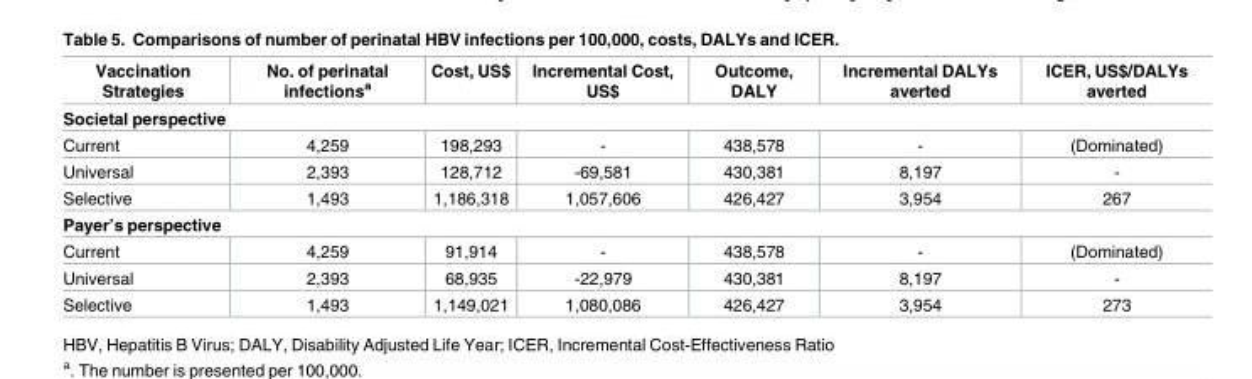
<table><thead><tr><td>Vaccination Strategies</td><td>No. of perinatal infections<sup>a</sup></td><td>Cost, US$</td><td>Incremental Cost, US$</td><td>Outcome, DALY</td><td>Incremental DALYs averted</td><td>ICER, US$/DALYs averted</td></tr></thead><tbody><tr><td colspan="7">Societal perspective</td></tr><tr><td>Current</td><td>4,259</td><td>198,293</td><td>-</td><td>438,578</td><td>-</td><td>(Dominated)</td></tr><tr><td>Universal</td><td>2,393</td><td>128,712</td><td>-69,581</td><td>430,381</td><td>8,197</td><td>-</td></tr><tr><td>Selective</td><td>1,493</td><td>1,186,318</td><td>1,057,606</td><td>426,427</td><td>3,954</td><td>267</td></tr><tr><td colspan="7">Payer’s perspective</td></tr><tr><td>Current</td><td>4,259</td><td>91,914</td><td>-</td><td>438,578</td><td>-</td><td>(Dominated)</td></tr><tr><td>Universal</td><td>2,393</td><td>68,935</td><td>-22,979</td><td>430,381</td><td>8,197</td><td>-</td></tr><tr><td>Selective</td><td>1,493</td><td>1,149,021</td><td>1,080,086</td><td>426,427</td><td>3,954</td><td>273</td></tr></tbody></table>